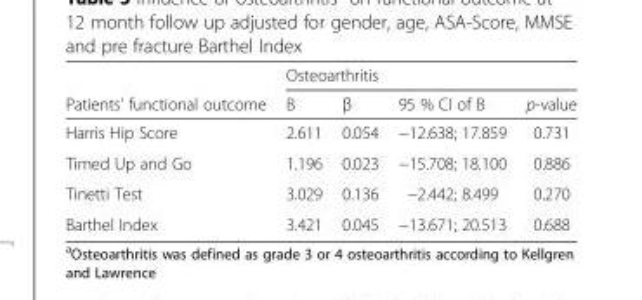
<table><thead><tr><td rowspan="2">Patients’ functional outcome</td><td colspan="4">Osteoarthritis</td></tr><tr><td>B</td><td>β</td><td>95 % CI of B</td><td>p-value</td></tr></thead><tbody><tr><td>Harris Hip Score</td><td>2.611</td><td>0.054</td><td>−12.638; 17.859</td><td>0.731</td></tr><tr><td>Timed Up and Go</td><td>1.196</td><td>0.023</td><td>−15.708; 18.100</td><td>0.886</td></tr><tr><td>Tinetti Test</td><td>3.029</td><td>0.136</td><td>−2.442; 8.499</td><td>0.270</td></tr><tr><td>Barthel Index</td><td>3.421</td><td>0.045</td><td>−13.671; 20.513</td><td>0.688</td></tr></tbody></table>